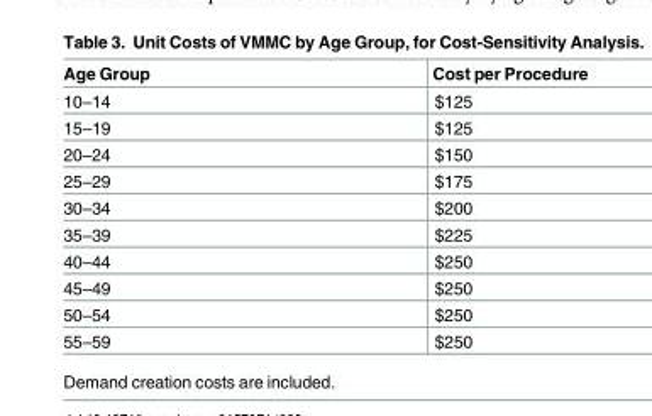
<table><thead><tr><td>Age Group</td><td>Cost per Procedure</td></tr></thead><tbody><tr><td>10–14</td><td>$125</td></tr><tr><td>15–19</td><td>$125</td></tr><tr><td>20–24</td><td>$150</td></tr><tr><td>25–29</td><td>$175</td></tr><tr><td>30–34</td><td>$200</td></tr><tr><td>35–39</td><td>$225</td></tr><tr><td>40–44</td><td>$250</td></tr><tr><td>45–49</td><td>$250</td></tr><tr><td>50–54</td><td>$250</td></tr><tr><td>55–59</td><td>$250</td></tr></tbody></table>